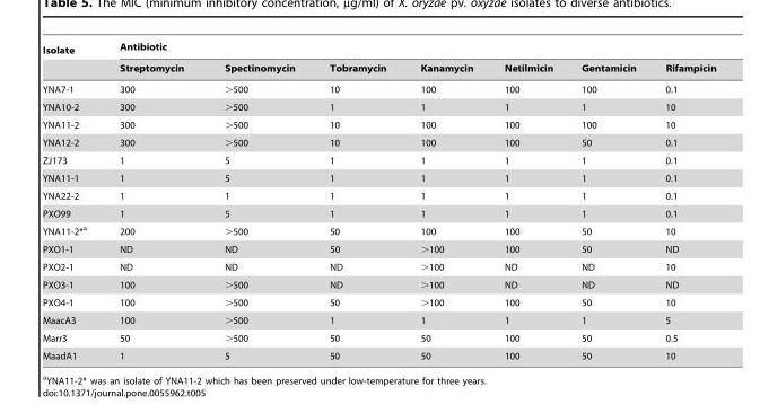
<table><thead><tr><td rowspan="2">Isolate</td><td colspan="7">Antibiotic</td></tr><tr><td>Streptomycin</td><td>Spectinomycin</td><td>Tobramycin</td><td>Kanamycin</td><td>Netilmicin</td><td>Gentamicin</td><td>Rifampicin</td></tr></thead><tbody><tr><td>YNA7-1</td><td>300</td><td>&gt;500</td><td>10</td><td>100</td><td>100</td><td>100</td><td>0.1</td></tr><tr><td>YNA10-2</td><td>300</td><td>&gt;500</td><td>1</td><td>1</td><td>1</td><td>1</td><td>10</td></tr><tr><td>YNA11-2</td><td>300</td><td>&gt;500</td><td>10</td><td>100</td><td>100</td><td>100</td><td>10</td></tr><tr><td>YNA12-2</td><td>300</td><td>&gt;500</td><td>10</td><td>100</td><td>100</td><td>50</td><td>0.1</td></tr><tr><td>ZJ173</td><td>1</td><td>5</td><td>1</td><td>1</td><td>1</td><td>1</td><td>0.1</td></tr><tr><td>YNA11-1</td><td>1</td><td>5</td><td>1</td><td>1</td><td>1</td><td>1</td><td>0.1</td></tr><tr><td>YNA22-2</td><td>1</td><td>1</td><td>1</td><td>1</td><td>1</td><td>1</td><td>0.1</td></tr><tr><td>PXO99</td><td>1</td><td>5</td><td>1</td><td>1</td><td>1</td><td>1</td><td>0.1</td></tr><tr><td>YNA11-2*<sup>a</sup></td><td>200</td><td>&gt;500</td><td>50</td><td>100</td><td>100</td><td>50</td><td>10</td></tr><tr><td>PXO1-1</td><td>ND</td><td>ND</td><td>50</td><td>&gt;100</td><td>100</td><td>50</td><td>ND</td></tr><tr><td>PXO2-1</td><td>ND</td><td>ND</td><td>ND</td><td>&gt;100</td><td>ND</td><td>ND</td><td>10</td></tr><tr><td>PXO3-1</td><td>100</td><td>&gt;500</td><td>ND</td><td>&gt;100</td><td>ND</td><td>ND</td><td>ND</td></tr><tr><td>PXO4-1</td><td>100</td><td>&gt;500</td><td>50</td><td>&gt;100</td><td>100</td><td>50</td><td>10</td></tr><tr><td>MaacA3</td><td>100</td><td>&gt;500</td><td>1</td><td>1</td><td>1</td><td>1</td><td>5</td></tr><tr><td>Marr3</td><td>50</td><td>&gt;500</td><td>50</td><td>50</td><td>100</td><td>50</td><td>0.5</td></tr><tr><td>MaadA1</td><td>1</td><td>5</td><td>50</td><td>50</td><td>100</td><td>50</td><td>10</td></tr></tbody></table>